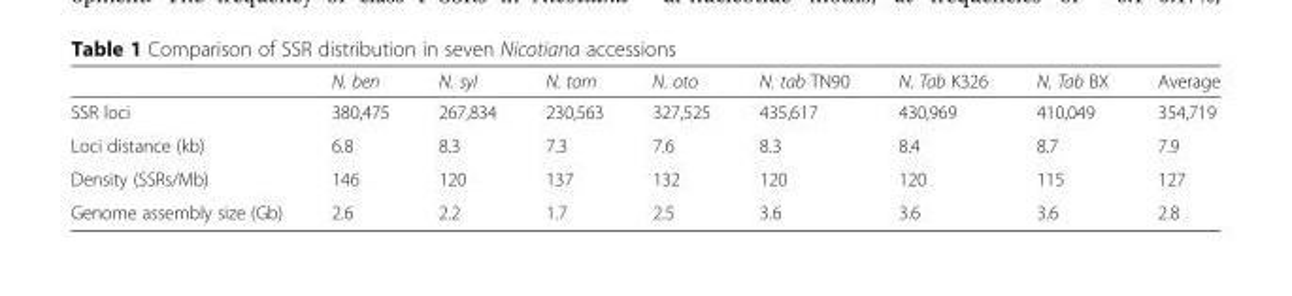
<table><thead><tr><td></td><td>N. ben</td><td>N. syl</td><td>N. tom</td><td>N. oto</td><td>N. tab TN90</td><td>N. Tab K326</td><td>N. Tab BX</td><td>Average</td></tr></thead><tbody><tr><td>SSR loci</td><td>380,475</td><td>267,834</td><td>230,563</td><td>327,525</td><td>435,617</td><td>430,969</td><td>410,049</td><td>354,719</td></tr><tr><td>Loci distance (kb)</td><td>6.8</td><td>8.3</td><td>7.3</td><td>7.6</td><td>8.3</td><td>8.4</td><td>8.7</td><td>7.9</td></tr><tr><td>Density (SSRs/Mb)</td><td>146</td><td>120</td><td>137</td><td>132</td><td>120</td><td>120</td><td>115</td><td>127</td></tr><tr><td>Genome assembly size (Gb)</td><td>2.6</td><td>2.2</td><td>1.7</td><td>2.5</td><td>3.6</td><td>3.6</td><td>3.6</td><td>2.8</td></tr></tbody></table>